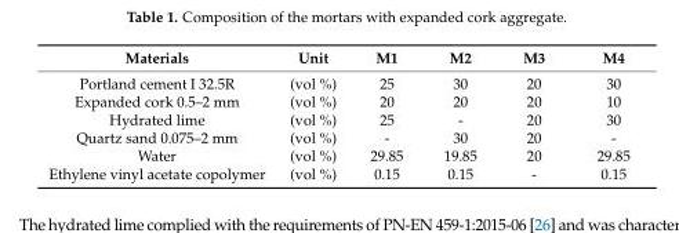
<table><thead><tr><td>Materials</td><td>Unit</td><td>M1</td><td>M2</td><td>M3</td><td>M4</td></tr></thead><tbody><tr><td>Portland cement I 32.5R</td><td>(vol %)</td><td>25</td><td>30</td><td>20</td><td>30</td></tr><tr><td>Expanded cork 0.5–2 mm</td><td>(vol %)</td><td>20</td><td>20</td><td>20</td><td>10</td></tr><tr><td>Hydrated lime</td><td>(vol %)</td><td>25</td><td>-</td><td>20</td><td>30</td></tr><tr><td>Quartz sand 0.075–2 mm</td><td>(vol %)</td><td>-</td><td>30</td><td>20</td><td>-</td></tr><tr><td>Water</td><td>(vol %)</td><td>29.85</td><td>19.85</td><td>20</td><td>29.85</td></tr><tr><td>Ethylene vinyl acetate copolymer</td><td>(vol %)</td><td>0.15</td><td>0.15</td><td>-</td><td>0.15</td></tr></tbody></table>